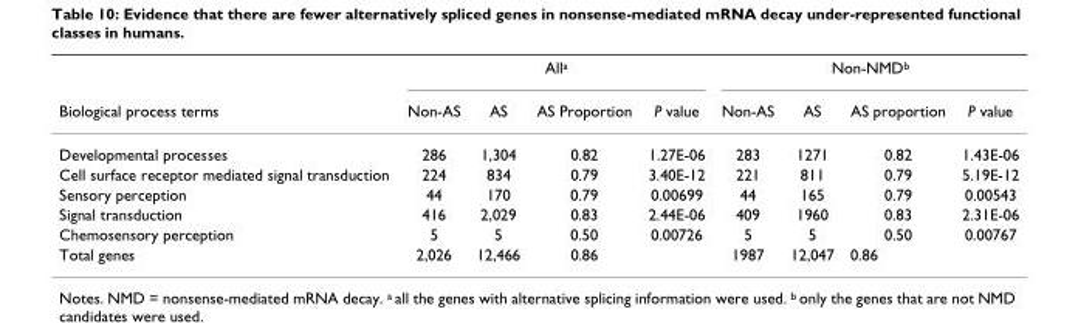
<table><thead><tr><td rowspan="2">Biological process terms</td><td colspan="4">All<sup>a</sup></td><td colspan="4">Non-NMD<sup>b</sup></td></tr><tr><td>Non-AS</td><td>AS</td><td>AS Proportion</td><td>P value</td><td>Non-AS</td><td>AS</td><td>AS proportion</td><td>P value</td></tr></thead><tbody><tr><td>Developmental processes</td><td>286</td><td>1,304</td><td>0.82</td><td>1.27E-06</td><td>283</td><td>1271</td><td>0.82</td><td>1.43E-06</td></tr><tr><td>Cell surface receptor mediated signal transduction</td><td>224</td><td>834</td><td>0.79</td><td>3.40E-12</td><td>221</td><td>811</td><td>0.79</td><td>5.19E-12</td></tr><tr><td>Sensory perception</td><td>44</td><td>170</td><td>0.79</td><td>0.00699</td><td>44</td><td>165</td><td>0.79</td><td>0.00543</td></tr><tr><td>Signal transduction</td><td>416</td><td>2,029</td><td>0.83</td><td>2.44E-06</td><td>409</td><td>1960</td><td>0.83</td><td>2.31E-06</td></tr><tr><td>Chemosensory perception</td><td>5</td><td>5</td><td>0.50</td><td>0.00726</td><td>5</td><td>5</td><td>0.50</td><td>0.00767</td></tr><tr><td>Total genes</td><td>2,026</td><td>12,466</td><td>0.86</td><td></td><td>1987</td><td>12,047</td><td>0.86</td><td></td></tr></tbody></table>